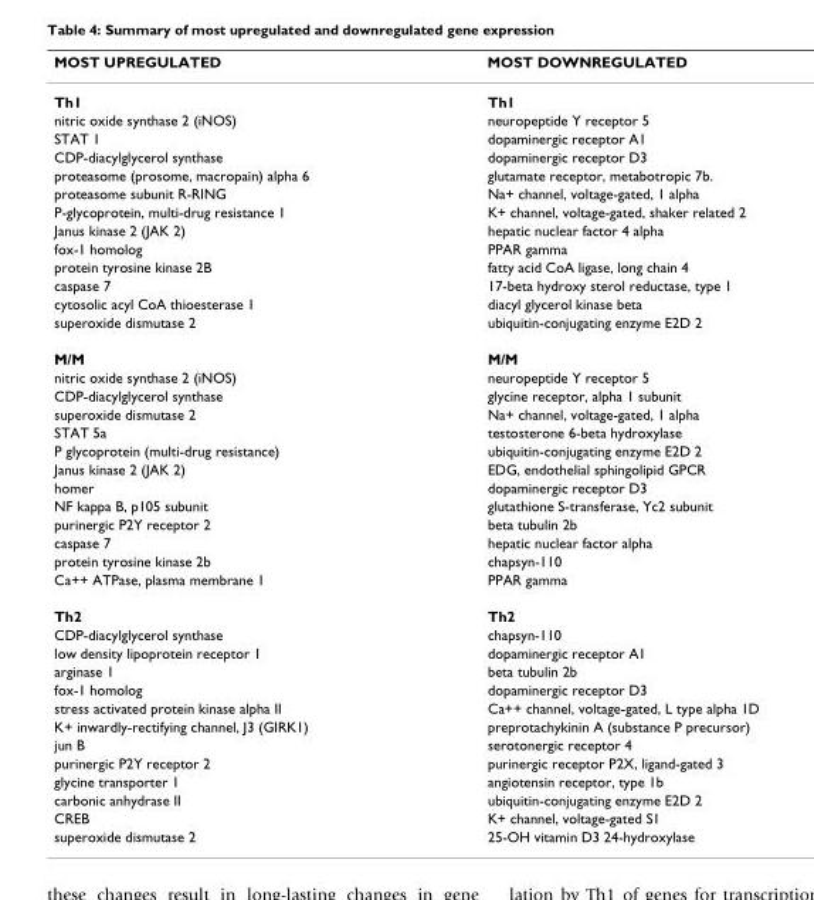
<table><thead><tr><td>MOST UPREGULATED</td><td>MOST DOWNREGULATED</td></tr></thead><tbody><tr><td>Th1</td><td>Th1</td></tr><tr><td>nitric oxide synthase 2 (iNOS)</td><td>neuropeptide Y receptor 5</td></tr><tr><td>STAT 1</td><td>dopaminergic receptor A1</td></tr><tr><td>CDP-diacylglycerol synthase</td><td>dopaminergic receptor D3</td></tr><tr><td>proteasome (prosome, macropain) alpha 6</td><td>glutamate receptor, metabotropic 7b.</td></tr><tr><td>proteasome subunit R-RING</td><td>Na+ channel, voltage-gated, 1 alpha</td></tr><tr><td>P-glycoprotein, multi-drug resistance 1</td><td>K+ channel, voltage-gated, shaker related 2</td></tr><tr><td>Janus kinase 2 (JAK 2)</td><td>hepatic nuclear factor 4 alpha</td></tr><tr><td>fox-1 homolog</td><td>PPAR gamma</td></tr><tr><td>protein tyrosine kinase 2B</td><td>fatty acid CoA ligase, long chain 4</td></tr><tr><td>caspase 7</td><td>17-beta hydroxy sterol reductase, type 1</td></tr><tr><td>cytosolic acyl CoA thioesterase 1</td><td>diacyl glycerol kinase beta</td></tr><tr><td>superoxide dismutase 2</td><td>ubiquitin-conjugating enzyme E2D 2</td></tr><tr><td>M/M</td><td>M/M</td></tr><tr><td>nitric oxide synthase 2 (iNOS)</td><td>neuropeptide Y receptor 5</td></tr><tr><td>CDP-diacylglycerol synthase</td><td>glycine receptor, alpha 1 subunit</td></tr><tr><td>superoxide dismutase 2</td><td>Na+ channel, voltage-gated, 1 alpha</td></tr><tr><td>STAT 5a</td><td>testosterone 6-beta hydroxylase</td></tr><tr><td>P glycoprotein (multi-drug resistance)</td><td>ubiquitin-conjugating enzyme E2D 2</td></tr><tr><td>Janus kinase 2 (JAK 2)</td><td>EDG, endothelial sphingolipid GPCR</td></tr><tr><td>homer</td><td>dopaminergic receptor D3</td></tr><tr><td>NF kappa B, p105 subunit</td><td>glutathione S-transferase, Yc2 subunit</td></tr><tr><td>purinergic P2Y receptor 2</td><td>beta tubulin 2b</td></tr><tr><td>caspase 7</td><td>hepatic nuclear factor alpha</td></tr><tr><td>protein tyrosine kinase 2b</td><td>chapsyn-110</td></tr><tr><td>Ca++ ATPase, plasma membrane 1</td><td>PPAR gamma</td></tr><tr><td>Th2</td><td>Th2</td></tr><tr><td>CDP-diacylglycerol synthase</td><td>chapsyn-110</td></tr><tr><td>low density lipoprotein receptor 1</td><td>dopaminergic receptor A1</td></tr><tr><td>arginase 1</td><td>beta tubulin 2b</td></tr><tr><td>fox-1 homolog</td><td>dopaminergic receptor D3</td></tr><tr><td>stress activated protein kinase alpha II</td><td>Ca++ channel, voltage-gated, L type alpha 1D</td></tr><tr><td>K+ inwardly-rectifying channel, J3 (GIRK1)</td><td>preprotachykinin A (substance P precursor)</td></tr><tr><td>jun B</td><td>serotonergic receptor 4</td></tr><tr><td>purinergic P2Y receptor 2</td><td>purinergic receptor P2X, ligand-gated 3</td></tr><tr><td>glycine transporter 1</td><td>angiotensin receptor, type 1b</td></tr><tr><td>carbonic anhydrase II</td><td>ubiquitin-conjugating enzyme E2D 2</td></tr><tr><td>CREB</td><td>K+ channel, voltage-gated S1</td></tr><tr><td>superoxide dismutase 2</td><td>25-OH vitamin D3 24-hydroxylase</td></tr></tbody></table>